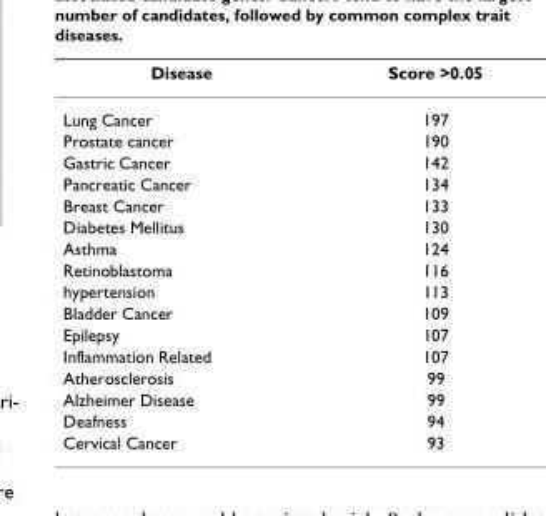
<table><thead><tr><td>Disease</td><td>Score &gt;0.05</td></tr></thead><tbody><tr><td>Lung Cancer</td><td>197</td></tr><tr><td>Prostate cancer</td><td>190</td></tr><tr><td>Gastric Cancer</td><td>142</td></tr><tr><td>Pancreatic Cancer</td><td>134</td></tr><tr><td>Breast Cancer</td><td>133</td></tr><tr><td>Diabetes Mellitus</td><td>130</td></tr><tr><td>Asthma</td><td>124</td></tr><tr><td>Retinoblastoma</td><td>116</td></tr><tr><td>hypertension</td><td>113</td></tr><tr><td>Bladder Cancer</td><td>109</td></tr><tr><td>Epilepsy</td><td>107</td></tr><tr><td>Inflammation Related</td><td>107</td></tr><tr><td>Atherosclerosis</td><td>99</td></tr><tr><td>Alzheimer Disease</td><td>99</td></tr><tr><td>Deafness</td><td>94</td></tr><tr><td>Cervical Cancer</td><td>93</td></tr></tbody></table>